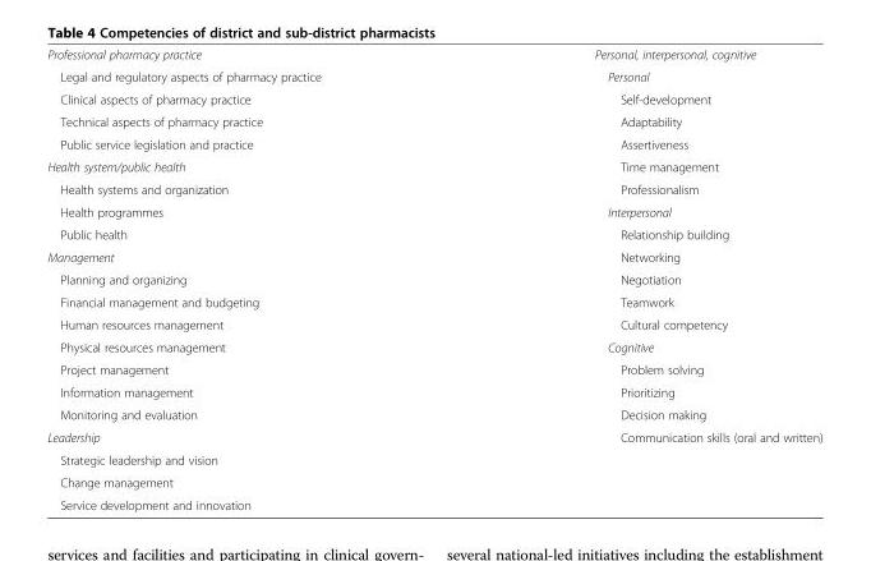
<table><tbody><tr><td>Professional pharmacy practice</td><td>Personal, interpersonal, cognitive</td></tr><tr><td>Legal and regulatory aspects of pharmacy practice</td><td>Personal</td></tr><tr><td>Clinical aspects of pharmacy practice</td><td>Self-development</td></tr><tr><td>Technical aspects of pharmacy practice</td><td>Adaptability</td></tr><tr><td>Public service legislation and practice</td><td>Assertiveness</td></tr><tr><td>Health system/public health</td><td>Time management</td></tr><tr><td>Health systems and organization</td><td>Professionalism</td></tr><tr><td>Health programmes</td><td>Interpersonal</td></tr><tr><td>Public health</td><td>Relationship building</td></tr><tr><td>Management</td><td>Networking</td></tr><tr><td>Planning and organizing</td><td>Negotiation</td></tr><tr><td>Financial management and budgeting</td><td>Teamwork</td></tr><tr><td>Human resources management</td><td>Cultural competency</td></tr><tr><td>Physical resources management</td><td>Cognitive</td></tr><tr><td>Project management</td><td>Problem solving</td></tr><tr><td>Information management</td><td>Prioritizing</td></tr><tr><td>Monitoring and evaluation</td><td>Decision making</td></tr><tr><td>Leadership</td><td>Communication skills (oral and written)</td></tr><tr><td colspan="2">Strategic leadership and vision</td></tr><tr><td colspan="2">Change management</td></tr><tr><td>Service development and innovation</td><td></td></tr></tbody></table>